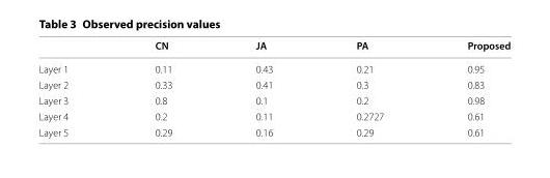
<table><thead><tr><td></td><td>CN</td><td>JA</td><td>PA</td><td>Proposed</td></tr></thead><tbody><tr><td>Layer 1</td><td>0.11</td><td>0.43</td><td>0.21</td><td>0.95</td></tr><tr><td>Layer 2</td><td>0.33</td><td>0.41</td><td>0.3</td><td>0.83</td></tr><tr><td>Layer 3</td><td>0.8</td><td>0.1</td><td>0.2</td><td>0.98</td></tr><tr><td>Layer 4</td><td>0.2</td><td>0.11</td><td>0.2727</td><td>0.61</td></tr><tr><td>Layer 5</td><td>0.29</td><td>0.16</td><td>0.29</td><td>0.61</td></tr></tbody></table>